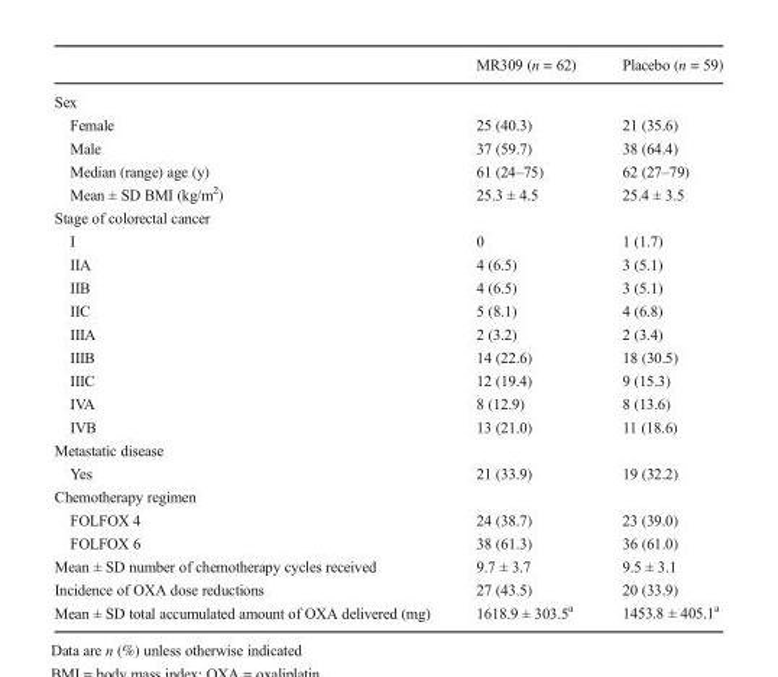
<table><thead><tr><td></td><td>MR309 (n = 62)</td><td>Placebo (n = 59)</td></tr></thead><tbody><tr><td colspan="3">Sex</td></tr><tr><td>Female</td><td>25 (40.3)</td><td>21 (35.6)</td></tr><tr><td>Male</td><td>37 (59.7)</td><td>38 (64.4)</td></tr><tr><td>Median (range) age (y)</td><td>61 (24–75)</td><td>62 (27–79)</td></tr><tr><td>Mean ± SD BMI (kg/m<sup>2</sup>)</td><td>25.3 ± 4.5</td><td>25.4 ± 3.5</td></tr><tr><td colspan="3">Stage of colorectal cancer</td></tr><tr><td>I</td><td>0</td><td>1 (1.7)</td></tr><tr><td>IIA</td><td>4 (6.5)</td><td>3 (5.1)</td></tr><tr><td>IIB</td><td>4 (6.5)</td><td>3 (5.1)</td></tr><tr><td>IIC</td><td>5 (8.1)</td><td>4 (6.8)</td></tr><tr><td>IIIA</td><td>2 (3.2)</td><td>2 (3.4)</td></tr><tr><td>IIIB</td><td>14 (22.6)</td><td>18 (30.5)</td></tr><tr><td>IIIC</td><td>12 (19.4)</td><td>9 (15.3)</td></tr><tr><td>IVA</td><td>8 (12.9)</td><td>8 (13.6)</td></tr><tr><td>IVB</td><td>13 (21.0)</td><td>11 (18.6)</td></tr><tr><td colspan="3">Metastatic disease</td></tr><tr><td>Yes</td><td>21 (33.9)</td><td>19 (32.2)</td></tr><tr><td colspan="3">Chemotherapy regimen</td></tr><tr><td>FOLFOX 4</td><td>24 (38.7)</td><td>23 (39.0)</td></tr><tr><td>FOLFOX 6</td><td>38 (61.3)</td><td>36 (61.0)</td></tr><tr><td>Mean ± SD number of chemotherapy cycles received</td><td>9.7 ± 3.7</td><td>9.5 ± 3.1</td></tr><tr><td>Incidence of OXA dose reductions</td><td>27 (43.5)</td><td>20 (33.9)</td></tr><tr><td>Mean ± SD total accumulated amount of OXA delivered (mg)</td><td>1618.9 ± 303.5<sup>a</sup></td><td>1453.8 ± 405.1<sup>a</sup></td></tr></tbody></table>